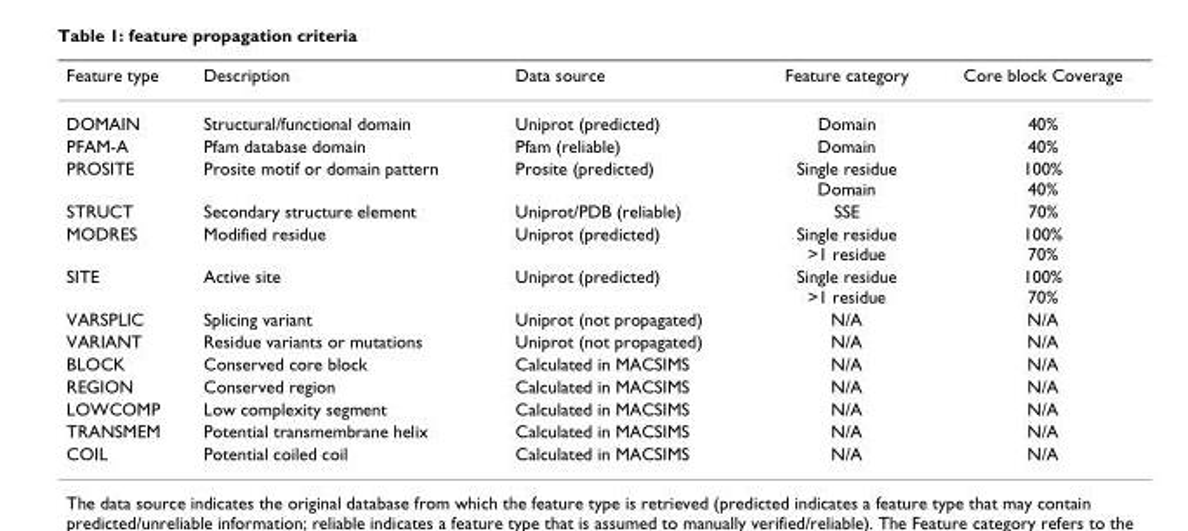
<table><thead><tr><td>Feature type</td><td>Description</td><td>Data source</td><td>Feature category</td><td>Core block Coverage</td></tr></thead><tbody><tr><td>DOMAIN</td><td>Structural/functional domain</td><td>Uniprot (predicted)</td><td>Domain</td><td>40%</td></tr><tr><td>PFAM-A</td><td>Pfam database domain</td><td>Pfam (reliable)</td><td>Domain</td><td>40%</td></tr><tr><td>PROSITE</td><td>Prosite motif or domain pattern</td><td>Prosite (predicted)</td><td>Single residue Domain</td><td>100% 40%</td></tr><tr><td>STRUCT</td><td>Secondary structure element</td><td>Uniprot/PDB (reliable)</td><td>SSE</td><td>70%</td></tr><tr><td>MODRES</td><td>Modified residue</td><td>Uniprot (predicted)</td><td>Single residue &gt;1 residue</td><td>100% 70%</td></tr><tr><td>SITE</td><td>Active site</td><td>Uniprot (predicted)</td><td>Single residue &gt;1 residue</td><td>100% 70%</td></tr><tr><td>VARSPLIC</td><td>Splicing variant</td><td>Uniprot (not propagated)</td><td>N/A</td><td>N/A</td></tr><tr><td>VARIANT</td><td>Residue variants or mutations</td><td>Uniprot (not propagated)</td><td>N/A</td><td>N/A</td></tr><tr><td>BLOCK</td><td>Conserved core block</td><td>Calculated in MACSIMS</td><td>N/A</td><td>N/A</td></tr><tr><td>REGION</td><td>Conserved region</td><td>Calculated in MACSIMS</td><td>N/A</td><td>N/A</td></tr><tr><td>LOWCOMP</td><td>Low complexity segment</td><td>Calculated in MACSIMS</td><td>N/A</td><td>N/A</td></tr><tr><td>TRANSMEM</td><td>Potential transmembrane helix</td><td>Calculated in MACSIMS</td><td>N/A</td><td>N/A</td></tr><tr><td>COIL</td><td>Potential coiled coil</td><td>Calculated in MACSIMS</td><td>N/A</td><td>N/A</td></tr></tbody></table>